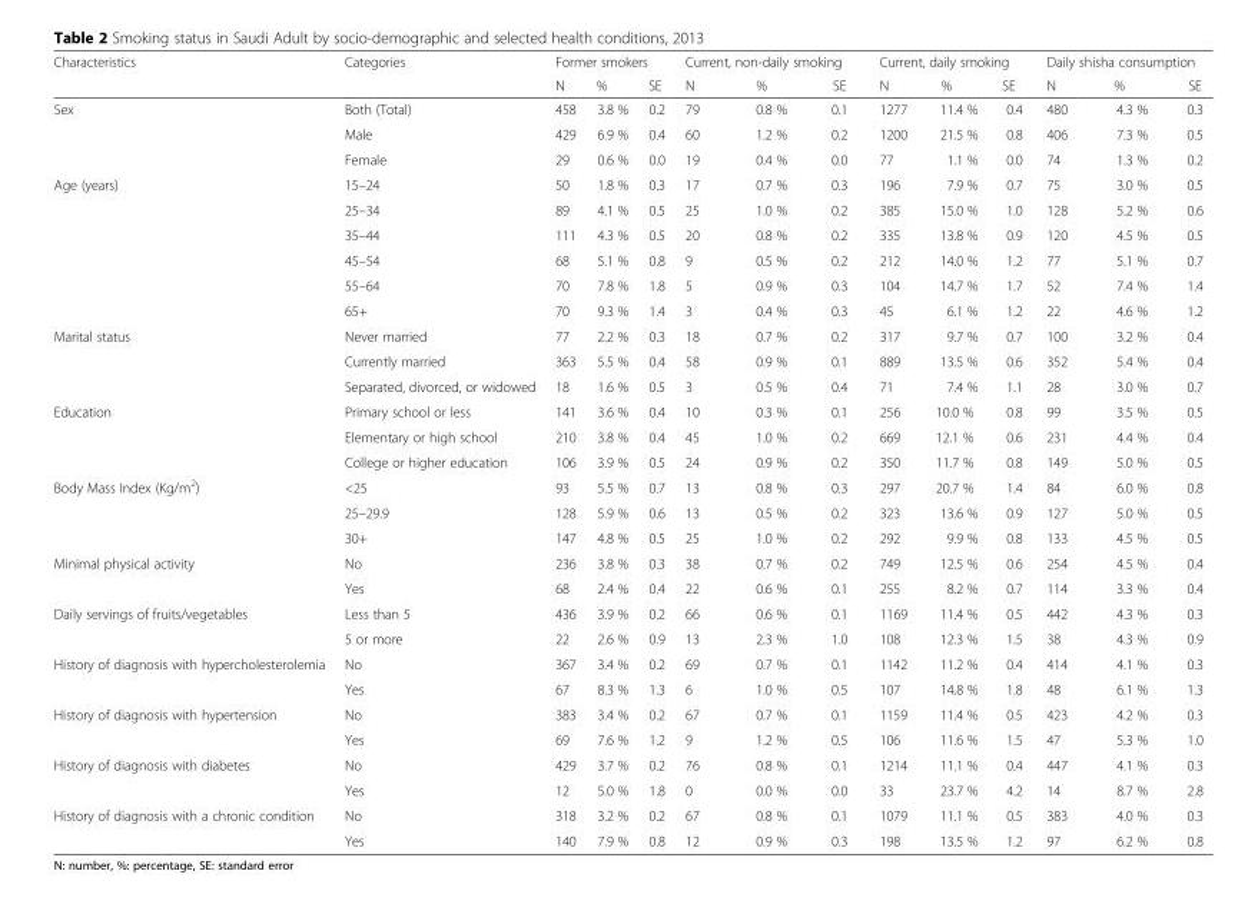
<table><thead><tr><td rowspan="2">Characteristics</td><td rowspan="2">Categories</td><td colspan="3">Former smokers</td><td colspan="3">Current, non-daily smoking</td><td colspan="3">Current, daily smoking</td><td colspan="3">Daily shisha consumption</td></tr><tr><td>N</td><td>%</td><td>SE</td><td>N</td><td>%</td><td>SE</td><td>N</td><td>%</td><td>SE</td><td>N</td><td>%</td><td>SE</td></tr></thead><tbody><tr><td rowspan="3">Sex</td><td>Both (Total)</td><td>458</td><td>3.8 %</td><td>0.2</td><td>79</td><td>0.8 %</td><td>0.1</td><td>1277</td><td>11.4 %</td><td>0.4</td><td>480</td><td>4.3 %</td><td>0.3</td></tr><tr><td>Male</td><td>429</td><td>6.9 %</td><td>0.4</td><td>60</td><td>1.2 %</td><td>0.2</td><td>1200</td><td>21.5 %</td><td>0.8</td><td>406</td><td>7.3 %</td><td>0.5</td></tr><tr><td>Female</td><td>29</td><td>0.6 %</td><td>0.0</td><td>19</td><td>0.4 %</td><td>0.0</td><td>77</td><td>1.1 %</td><td>0.0</td><td>74</td><td>1.3 %</td><td>0.2</td></tr><tr><td rowspan="6">Age (years)</td><td>15–24</td><td>50</td><td>1.8 %</td><td>0.3</td><td>17</td><td>0.7 %</td><td>0.3</td><td>196</td><td>7.9 %</td><td>0.7</td><td>75</td><td>3.0 %</td><td>0.5</td></tr><tr><td>25–34</td><td>89</td><td>4.1 %</td><td>0.5</td><td>25</td><td>1.0 %</td><td>0.2</td><td>385</td><td>15.0 %</td><td>1.0</td><td>128</td><td>5.2 %</td><td>0.6</td></tr><tr><td>35–44</td><td>111</td><td>4.3 %</td><td>0.5</td><td>20</td><td>0.8 %</td><td>0.2</td><td>335</td><td>13.8 %</td><td>0.9</td><td>120</td><td>4.5 %</td><td>0.5</td></tr><tr><td>45–54</td><td>68</td><td>5.1 %</td><td>0.8</td><td>9</td><td>0.5 %</td><td>0.2</td><td>212</td><td>14.0 %</td><td>1.2</td><td>77</td><td>5.1 %</td><td>0.7</td></tr><tr><td>55–64</td><td>70</td><td>7.8 %</td><td>1.8</td><td>5</td><td>0.9 %</td><td>0.3</td><td>104</td><td>14.7 %</td><td>1.7</td><td>52</td><td>7.4 %</td><td>1.4</td></tr><tr><td>65+</td><td>70</td><td>9.3 %</td><td>1.4</td><td>3</td><td>0.4 %</td><td>0.3</td><td>45</td><td>6.1 %</td><td>1.2</td><td>22</td><td>4.6 %</td><td>1.2</td></tr><tr><td rowspan="3">Marital status</td><td>Never married</td><td>77</td><td>2.2 %</td><td>0.3</td><td>18</td><td>0.7 %</td><td>0.2</td><td>317</td><td>9.7 %</td><td>0.7</td><td>100</td><td>3.2 %</td><td>0.4</td></tr><tr><td>Currently married</td><td>363</td><td>5.5 %</td><td>0.4</td><td>58</td><td>0.9 %</td><td>0.1</td><td>889</td><td>13.5 %</td><td>0.6</td><td>352</td><td>5.4 %</td><td>0.4</td></tr><tr><td>Separated, divorced, or widowed</td><td>18</td><td>1.6 %</td><td>0.5</td><td>3</td><td>0.5 %</td><td>0.4</td><td>71</td><td>7.4 %</td><td>1.1</td><td>28</td><td>3.0 %</td><td>0.7</td></tr><tr><td rowspan="3">Education</td><td>Primary school or less</td><td>141</td><td>3.6 %</td><td>0.4</td><td>10</td><td>0.3 %</td><td>0.1</td><td>256</td><td>10.0 %</td><td>0.8</td><td>99</td><td>3.5 %</td><td>0.5</td></tr><tr><td>Elementary or high school</td><td>210</td><td>3.8 %</td><td>0.4</td><td>45</td><td>1.0 %</td><td>0.2</td><td>669</td><td>12.1 %</td><td>0.6</td><td>231</td><td>4.4 %</td><td>0.4</td></tr><tr><td>College or higher education</td><td>106</td><td>3.9 %</td><td>0.5</td><td>24</td><td>0.9 %</td><td>0.2</td><td>350</td><td>11.7 %</td><td>0.8</td><td>149</td><td>5.0 %</td><td>0.5</td></tr><tr><td rowspan="3">Body Mass Index (Kg/m<sup>2</sup>)</td><td>&lt;25</td><td>93</td><td>5.5 %</td><td>0.7</td><td>13</td><td>0.8 %</td><td>0.3</td><td>297</td><td>20.7 %</td><td>1.4</td><td>84</td><td>6.0 %</td><td>0.8</td></tr><tr><td>25–29.9</td><td>128</td><td>5.9 %</td><td>0.6</td><td>13</td><td>0.5 %</td><td>0.2</td><td>323</td><td>13.6 %</td><td>0.9</td><td>127</td><td>5.0 %</td><td>0.5</td></tr><tr><td>30+</td><td>147</td><td>4.8 %</td><td>0.5</td><td>25</td><td>1.0 %</td><td>0.2</td><td>292</td><td>9.9 %</td><td>0.8</td><td>133</td><td>4.5 %</td><td>0.5</td></tr><tr><td rowspan="2">Minimal physical activity</td><td>No</td><td>236</td><td>3.8 %</td><td>0.3</td><td>38</td><td>0.7 %</td><td>0.2</td><td>749</td><td>12.5 %</td><td>0.6</td><td>254</td><td>4.5 %</td><td>0.4</td></tr><tr><td>Yes</td><td>68</td><td>2.4 %</td><td>0.4</td><td>22</td><td>0.6 %</td><td>0.1</td><td>255</td><td>8.2 %</td><td>0.7</td><td>114</td><td>3.3 %</td><td>0.4</td></tr><tr><td rowspan="2">Daily servings of fruits/vegetables</td><td>Less than 5</td><td>436</td><td>3.9 %</td><td>0.2</td><td>66</td><td>0.6 %</td><td>0.1</td><td>1169</td><td>11.4 %</td><td>0.5</td><td>442</td><td>4.3 %</td><td>0.3</td></tr><tr><td>5 or more</td><td>22</td><td>2.6 %</td><td>0.9</td><td>13</td><td>2.3 %</td><td>1.0</td><td>108</td><td>12.3 %</td><td>1.5</td><td>38</td><td>4.3 %</td><td>0.9</td></tr><tr><td rowspan="2">History of diagnosis with hypercholesterolemia</td><td>No</td><td>367</td><td>3.4 %</td><td>0.2</td><td>69</td><td>0.7 %</td><td>0.1</td><td>1142</td><td>11.2 %</td><td>0.4</td><td>414</td><td>4.1 %</td><td>0.3</td></tr><tr><td>Yes</td><td>67</td><td>8.3 %</td><td>1.3</td><td>6</td><td>1.0 %</td><td>0.5</td><td>107</td><td>14.8 %</td><td>1.8</td><td>48</td><td>6.1 %</td><td>1.3</td></tr><tr><td rowspan="2">History of diagnosis with hypertension</td><td>No</td><td>383</td><td>3.4 %</td><td>0.2</td><td>67</td><td>0.7 %</td><td>0.1</td><td>1159</td><td>11.4 %</td><td>0.5</td><td>423</td><td>4.2 %</td><td>0.3</td></tr><tr><td>Yes</td><td>69</td><td>7.6 %</td><td>1.2</td><td>9</td><td>1.2 %</td><td>0.5</td><td>106</td><td>11.6 %</td><td>1.5</td><td>47</td><td>5.3 %</td><td>1.0</td></tr><tr><td rowspan="2">History of diagnosis with diabetes</td><td>No</td><td>429</td><td>3.7 %</td><td>0.2</td><td>76</td><td>0.8 %</td><td>0.1</td><td>1214</td><td>11.1 %</td><td>0.4</td><td>447</td><td>4.1 %</td><td>0.3</td></tr><tr><td>Yes</td><td>12</td><td>5.0 %</td><td>1.8</td><td>0</td><td>0.0 %</td><td>0.0</td><td>33</td><td>23.7 %</td><td>4.2</td><td>14</td><td>8.7 %</td><td>2.8</td></tr><tr><td rowspan="2">History of diagnosis with a chronic condition</td><td>No</td><td>318</td><td>3.2 %</td><td>0.2</td><td>67</td><td>0.8 %</td><td>0.1</td><td>1079</td><td>11.1 %</td><td>0.5</td><td>383</td><td>4.0 %</td><td>0.3</td></tr><tr><td>Yes</td><td>140</td><td>7.9 %</td><td>0.8</td><td>12</td><td>0.9 %</td><td>0.3</td><td>198</td><td>13.5 %</td><td>1.2</td><td>97</td><td>6.2 %</td><td>0.8</td></tr></tbody></table>